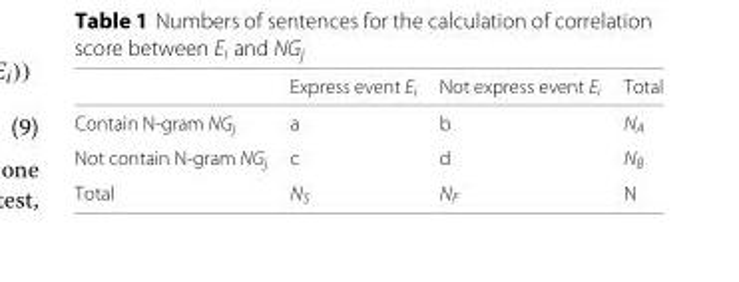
<table><thead><tr><td></td><td>Express event E<sub>i</sub></td><td>Not express event E<sub>i</sub></td><td>Total</td></tr></thead><tbody><tr><td>Contain N-gram NG<sub>j</sub></td><td>a</td><td>b</td><td>N<sub>A</sub></td></tr><tr><td>Not contain N-gram NG<sub>j</sub></td><td>c</td><td>d</td><td>N<sub>B</sub></td></tr><tr><td>Total</td><td>N<sub>S</sub></td><td>N<sub>F</sub></td><td>N</td></tr></tbody></table>